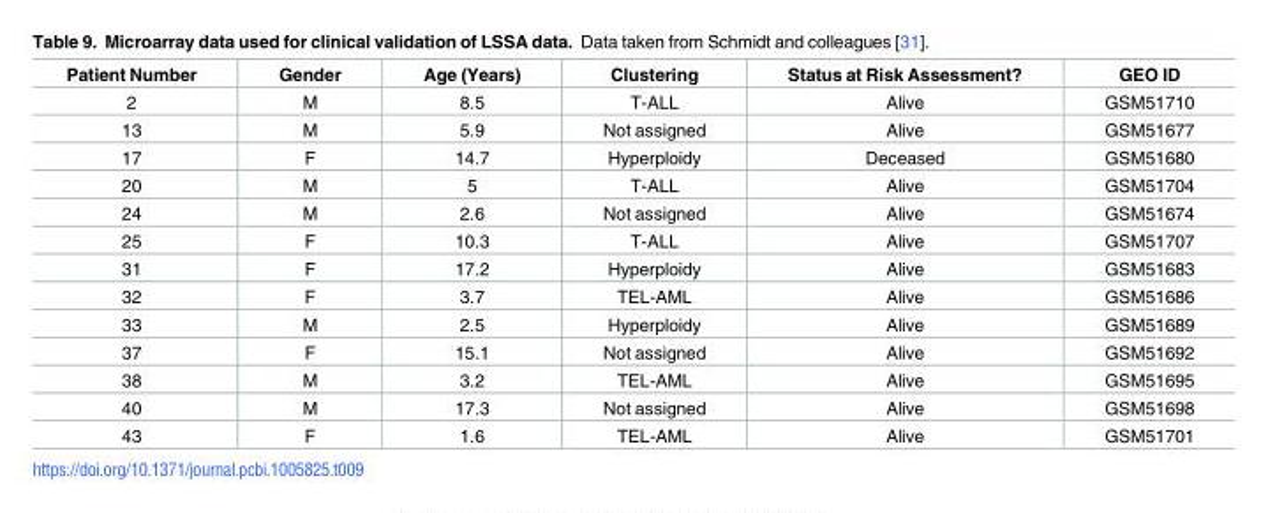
<table><thead><tr><td>Patient Number</td><td>Gender</td><td>Age (Years)</td><td>Clustering</td><td>Status at Risk Assessment?</td><td>GEO ID</td></tr></thead><tbody><tr><td>2</td><td>M</td><td>8.5</td><td>T-ALL</td><td>Alive</td><td>GSM51710</td></tr><tr><td>13</td><td>M</td><td>5.9</td><td>Not assigned</td><td>Alive</td><td>GSM51677</td></tr><tr><td>17</td><td>F</td><td>14.7</td><td>Hyperploidy</td><td>Deceased</td><td>GSM51680</td></tr><tr><td>20</td><td>M</td><td>5</td><td>T-ALL</td><td>Alive</td><td>GSM51704</td></tr><tr><td>24</td><td>M</td><td>2.6</td><td>Not assigned</td><td>Alive</td><td>GSM51674</td></tr><tr><td>25</td><td>F</td><td>10.3</td><td>T-ALL</td><td>Alive</td><td>GSM51707</td></tr><tr><td>31</td><td>F</td><td>17.2</td><td>Hyperploidy</td><td>Alive</td><td>GSM51683</td></tr><tr><td>32</td><td>F</td><td>3.7</td><td>TEL-AML</td><td>Alive</td><td>GSM51686</td></tr><tr><td>33</td><td>M</td><td>2.5</td><td>Hyperploidy</td><td>Alive</td><td>GSM51689</td></tr><tr><td>37</td><td>F</td><td>15.1</td><td>Not assigned</td><td>Alive</td><td>GSM51692</td></tr><tr><td>38</td><td>M</td><td>3.2</td><td>TEL-AML</td><td>Alive</td><td>GSM51695</td></tr><tr><td>40</td><td>M</td><td>17.3</td><td>Not assigned</td><td>Alive</td><td>GSM51698</td></tr><tr><td>43</td><td>F</td><td>1.6</td><td>TEL-AML</td><td>Alive</td><td>GSM51701</td></tr></tbody></table>